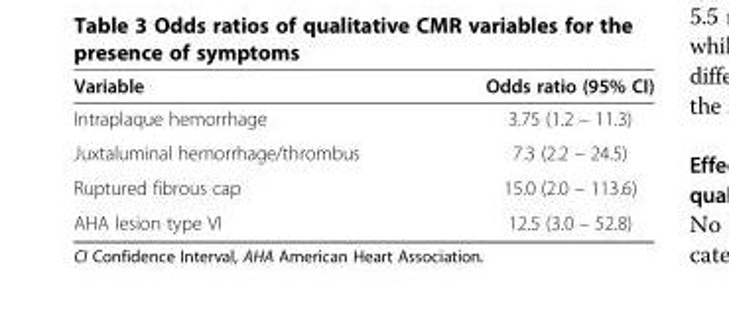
<table><thead><tr><td>Variable</td><td>Odds ratio (95% CI)</td></tr></thead><tbody><tr><td>Intraplaque hemorrhage</td><td>3.75 (1.2 – 11.3)</td></tr><tr><td>Juxtaluminal hemorrhage/thrombus</td><td>7.3 (2.2 – 24.5)</td></tr><tr><td>Ruptured fibrous cap</td><td>15.0 (2.0 – 113.6)</td></tr><tr><td>AHA lesion type VI</td><td>12.5 (3.0 – 52.8)</td></tr></tbody></table>